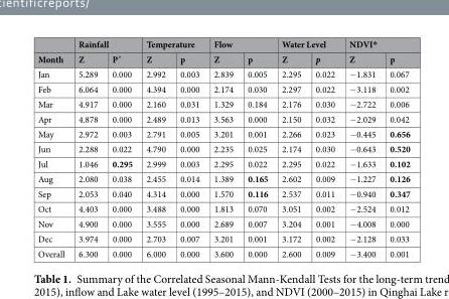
<table><thead><tr><td rowspan="2">Month</td><td colspan="2">Rainfall</td><td colspan="2">Temperature</td><td colspan="2">Flow</td><td colspan="2">Water Level</td><td colspan="2">NDVI*</td></tr><tr><td>Z</td><td>P<sup>^</sup></td><td>Z</td><td>p</td><td>Z</td><td>p</td><td>Z</td><td>p</td><td>Z</td><td>p</td></tr></thead><tbody><tr><td>Jan</td><td>5.289</td><td>0.000</td><td>2.992</td><td>0.003</td><td>2.839</td><td>0.005</td><td>2.295</td><td>0.022</td><td>−1.831</td><td>0.067</td></tr><tr><td>Feb</td><td>6.064</td><td>0.000</td><td>4.394</td><td>0.000</td><td>2.174</td><td>0.030</td><td>2.297</td><td>0.022</td><td>−3.118</td><td>0.002</td></tr><tr><td>Mar</td><td>4.917</td><td>0.000</td><td>2.160</td><td>0.031</td><td>1.329</td><td>0.184</td><td>2.176</td><td>0.030</td><td>−2.722</td><td>0.006</td></tr><tr><td>Apr</td><td>4.878</td><td>0.000</td><td>2.489</td><td>0.013</td><td>3.563</td><td>0.000</td><td>2.150</td><td>0.032</td><td>−2.029</td><td>0.042</td></tr><tr><td>May</td><td>2.972</td><td>0.003</td><td>2.791</td><td>0.005</td><td>3.201</td><td>0.001</td><td>2.266</td><td>0.023</td><td>−0.445</td><td>0.656</td></tr><tr><td>Jun</td><td>2.288</td><td>0.022</td><td>4.790</td><td>0.000</td><td>2.235</td><td>0.025</td><td>2.174</td><td>0.030</td><td>−0.643</td><td>0.520</td></tr><tr><td>Jul</td><td>1.046</td><td>0.295</td><td>2.999</td><td>0.003</td><td>2.295</td><td>0.022</td><td>2.295</td><td>0.022</td><td>−1.633</td><td>0.102</td></tr><tr><td>Aug</td><td>2.080</td><td>0.038</td><td>2.455</td><td>0.014</td><td>1.389</td><td>0.165</td><td>2.602</td><td>0.009</td><td>−1.227</td><td>0.126</td></tr><tr><td>Sep</td><td>2.053</td><td>0.040</td><td>4.314</td><td>0.000</td><td>1.570</td><td>0.116</td><td>2.537</td><td>0.011</td><td>−0.940</td><td>0.347</td></tr><tr><td>Oct</td><td>4.403</td><td>0.000</td><td>3.488</td><td>0.000</td><td>1.813</td><td>0.070</td><td>3.051</td><td>0.002</td><td>−2.524</td><td>0.012</td></tr><tr><td>Nov</td><td>4.900</td><td>0.000</td><td>3.555</td><td>0.000</td><td>2.689</td><td>0.007</td><td>3.204</td><td>0.001</td><td>−4.008</td><td>0.000</td></tr><tr><td>Dec</td><td>3.974</td><td>0.000</td><td>2.703</td><td>0.007</td><td>3.201</td><td>0.001</td><td>3.172</td><td>0.002</td><td>−2.128</td><td>0.033</td></tr><tr><td>Overall</td><td>6.300</td><td>0.000</td><td>6.000</td><td>0.000</td><td>3.600</td><td>0.000</td><td>2.600</td><td>0.009</td><td>−3.400</td><td>0.001</td></tr></tbody></table>